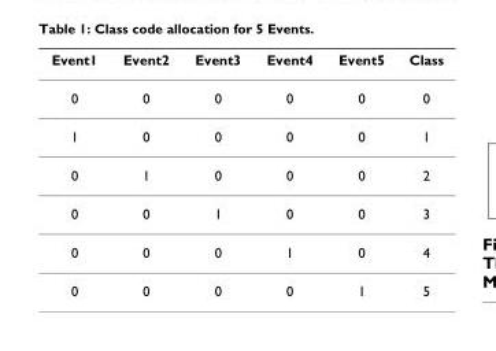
<table><thead><tr><td>Event1</td><td>Event2</td><td>Event3</td><td>Event4</td><td>Event5</td><td>Class</td></tr></thead><tbody><tr><td>0</td><td>0</td><td>0</td><td>0</td><td>0</td><td>0</td></tr><tr><td>1</td><td>0</td><td>0</td><td>0</td><td>0</td><td>1</td></tr><tr><td>0</td><td>1</td><td>0</td><td>0</td><td>0</td><td>2</td></tr><tr><td>0</td><td>0</td><td>1</td><td>0</td><td>0</td><td>3</td></tr><tr><td>0</td><td>0</td><td>0</td><td>1</td><td>0</td><td>4</td></tr><tr><td>0</td><td>0</td><td>0</td><td>0</td><td>1</td><td>5</td></tr></tbody></table>